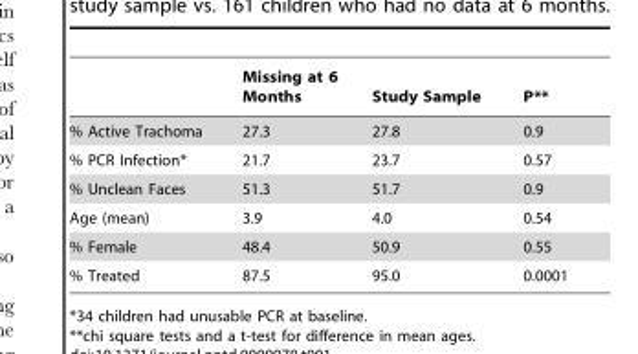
<table><thead><tr><td></td><td>Missing at 6 Months</td><td>Study Sample</td><td>P**</td></tr></thead><tbody><tr><td>% Active Trachoma</td><td>27.3</td><td>27.8</td><td>0.9</td></tr><tr><td>% PCR Infection*</td><td>21.7</td><td>23.7</td><td>0.57</td></tr><tr><td>% Unclean Faces</td><td>51.3</td><td>51.7</td><td>0.9</td></tr><tr><td>Age (mean)</td><td>3.9</td><td>4.0</td><td>0.54</td></tr><tr><td>% Female</td><td>48.4</td><td>50.9</td><td>0.55</td></tr><tr><td>% Treated</td><td>87.5</td><td>95.0</td><td>0.0001</td></tr></tbody></table>